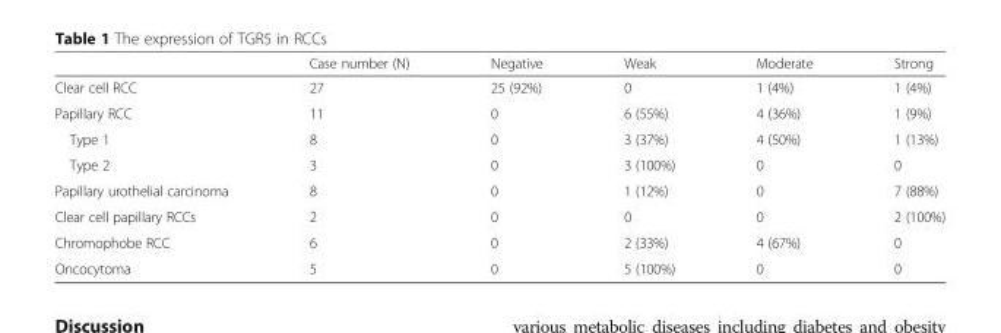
<table><thead><tr><td></td><td>Case number (N)</td><td>Negative</td><td>Weak</td><td>Moderate</td><td>Strong</td></tr></thead><tbody><tr><td>Clear cell RCC</td><td>27</td><td>25 (92%)</td><td>0</td><td>1 (4%)</td><td>1 (4%)</td></tr><tr><td>Papillary RCC</td><td>11</td><td>0</td><td>6 (55%)</td><td>4 (36%)</td><td>1 (9%)</td></tr><tr><td>Type 1</td><td>8</td><td>0</td><td>3 (37%)</td><td>4 (50%)</td><td>1 (13%)</td></tr><tr><td>Type 2</td><td>3</td><td>0</td><td>3 (100%)</td><td>0</td><td>0</td></tr><tr><td>Papillary urothelial carcinoma</td><td>8</td><td>0</td><td>1 (12%)</td><td>0</td><td>7 (88%)</td></tr><tr><td>Clear cell papillary RCCs</td><td>2</td><td>0</td><td>0</td><td>0</td><td>2 (100%)</td></tr><tr><td>Chromophobe RCC</td><td>6</td><td>0</td><td>2 (33%)</td><td>4 (67%)</td><td>0</td></tr><tr><td>Oncocytoma</td><td>5</td><td>0</td><td>5 (100%)</td><td>0</td><td>0</td></tr></tbody></table>